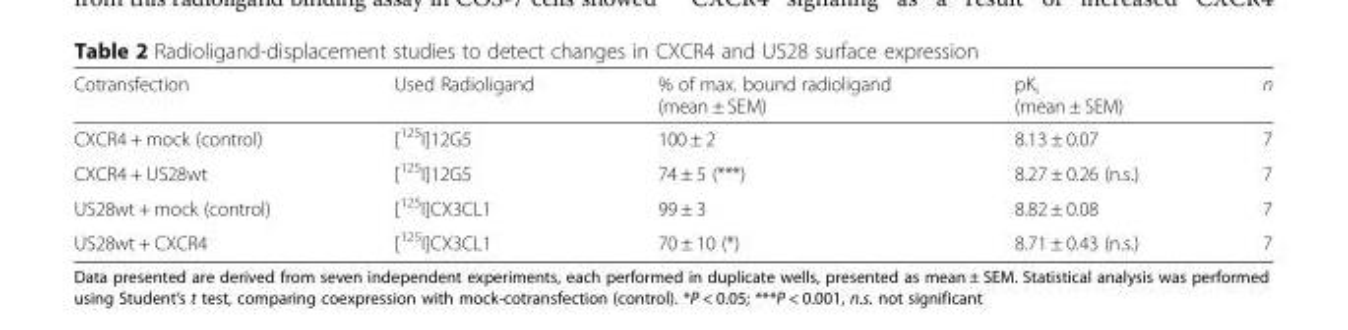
<table><thead><tr><td>Cotransfection</td><td>Used Radioligand</td><td>% of max. bound radioligand (mean ± SEM)</td><td>pK<sub>i</sub> (mean ± SEM)</td><td>n</td></tr></thead><tbody><tr><td>CXCR4 + mock (control)</td><td>[<sup>125</sup>I]12G5</td><td>100 ± 2</td><td>8.13 ± 0.07</td><td>7</td></tr><tr><td>CXCR4 + US28wt</td><td>[<sup>125</sup>I]12G5</td><td>74 ± 5 (***)</td><td>8.27 ± 0.26 (n.s.)</td><td>7</td></tr><tr><td>US28wt + mock (control)</td><td>[<sup>125</sup>I]CX3CL1</td><td>99 ± 3</td><td>8.82 ± 0.08</td><td>7</td></tr><tr><td>US28wt + CXCR4</td><td>[<sup>125</sup>I]CX3CL1</td><td>70 ± 10 (*)</td><td>8.71 ± 0.43 (n.s.)</td><td>7</td></tr></tbody></table>